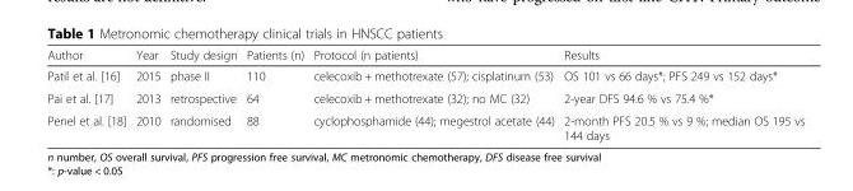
<table><thead><tr><td>Author</td><td>Year</td><td>Study design</td><td>Patients (n)</td><td>Protocol (n patients)</td><td>Results</td></tr></thead><tbody><tr><td>Patil et al. [16]</td><td>2015</td><td>phase II</td><td>110</td><td>celecoxib + methotrexate (57); cisplatinum (53)</td><td>OS 101 vs 66 days*; PFS 249 vs 152 days*</td></tr><tr><td>Pai et al. [17]</td><td>2013</td><td>retrospective</td><td>64</td><td>celecoxib + methotrexate (32); no MC (32)</td><td>2-year DFS 94.6 % vs 75.4 %*</td></tr><tr><td>Penel et al. [18]</td><td>2010</td><td>randomised</td><td>88</td><td>cyclophosphamide (44); megestrol acetate (44)</td><td>2-month PFS 20.5 % vs 9 %; median OS 195 vs 144 days</td></tr></tbody></table>